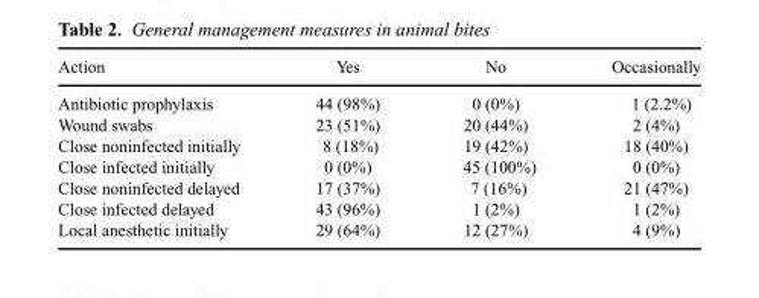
<table><thead><tr><td>Action</td><td>Yes</td><td>No</td><td>Occasionally</td></tr></thead><tbody><tr><td>Antibiotic prophylaxis</td><td>44 (98%)</td><td>0 (0%)</td><td>1 (2.2%)</td></tr><tr><td>Wound swabs</td><td>23 (51%)</td><td>20 (44%)</td><td>2 (4%)</td></tr><tr><td>Close noninfected initially</td><td>8 (18%)</td><td>19 (42%)</td><td>18 (40%)</td></tr><tr><td>Close infected initially</td><td>0 (0%)</td><td>45 (100%)</td><td>0 (0%)</td></tr><tr><td>Close noninfected delayed</td><td>17 (37%)</td><td>7 (16%)</td><td>21 (47%)</td></tr><tr><td>Close infected delayed</td><td>43 (96%)</td><td>1 (2%)</td><td>1 (2%)</td></tr><tr><td>Local anesthetic initially</td><td>29 (64%)</td><td>12 (27%)</td><td>4 (9%)</td></tr></tbody></table>